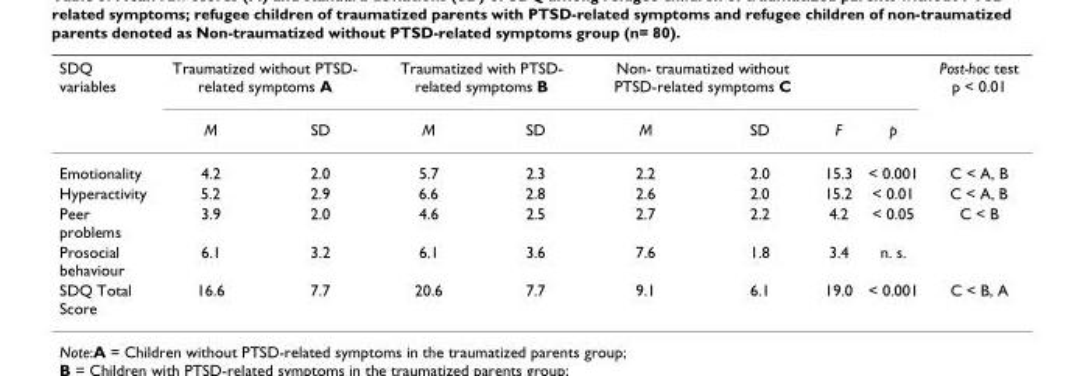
<table><thead><tr><td rowspan="2">SDQ variables</td><td colspan="2">Traumatized without PTSD- related symptoms A</td><td colspan="2">Traumatized with PTSD- related symptoms B</td><td colspan="2">Non- traumatized without PTSD-related symptoms C</td><td rowspan="2">F</td><td rowspan="2">p</td><td rowspan="2">Post-hoc test p &lt; 0.01</td></tr><tr><td>M</td><td>SD</td><td>M</td><td>SD</td><td>M</td><td>SD</td></tr></thead><tbody><tr><td>Emotionality</td><td>4.2</td><td>2.0</td><td>5.7</td><td>2.3</td><td>2.2</td><td>2.0</td><td>15.3</td><td>&lt; 0.001</td><td>C &lt; A, B</td></tr><tr><td>Hyperactivity</td><td>5.2</td><td>2.9</td><td>6.6</td><td>2.8</td><td>2.6</td><td>2.0</td><td>15.2</td><td>&lt; 0.01</td><td>C &lt; A, B</td></tr><tr><td>Peer problems</td><td>3.9</td><td>2.0</td><td>4.6</td><td>2.5</td><td>2.7</td><td>2.2</td><td>4.2</td><td>&lt; 0.05</td><td>C &lt; B</td></tr><tr><td>Prosocial behaviour</td><td>6.1</td><td>3.2</td><td>6.1</td><td>3.6</td><td>7.6</td><td>1.8</td><td>3.4</td><td>n. s.</td><td></td></tr><tr><td>SDQ Total Score</td><td>16.6</td><td>7.7</td><td>20.6</td><td>7.7</td><td>9.1</td><td>6.1</td><td>19.0</td><td>&lt; 0.001</td><td>C &lt; B, A</td></tr></tbody></table>